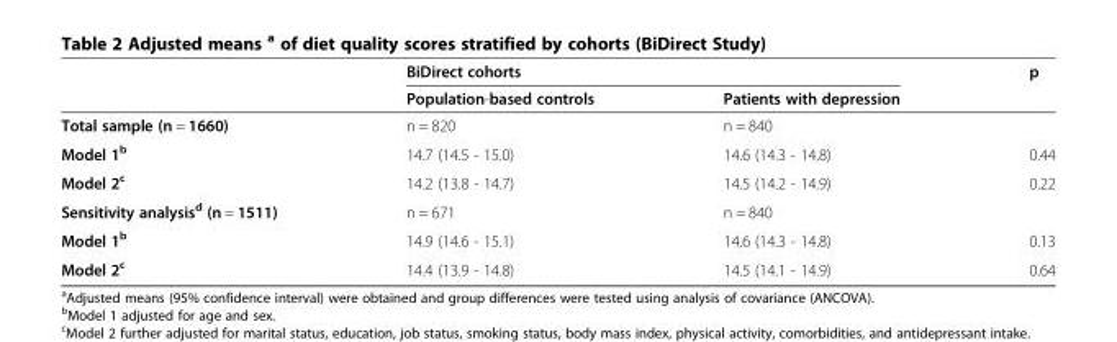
<table><thead><tr><td rowspan="2"></td><td colspan="2">BiDirect cohorts</td><td rowspan="2">p</td></tr><tr><td>Population-based controls</td><td>Patients with depression</td></tr></thead><tbody><tr><td>Total sample (n = 1660)</td><td>n = 820</td><td>n = 840</td><td></td></tr><tr><td>Model 1<sup>b</sup></td><td>14.7 (14.5 - 15.0)</td><td>14.6 (14.3 - 14.8)</td><td>0.44</td></tr><tr><td>Model 2<sup>c</sup></td><td>14.2 (13.8 - 14.7)</td><td>14.5 (14.2 - 14.9)</td><td>0.22</td></tr><tr><td>Sensitivity analysis<sup>d</sup> (n = 1511)</td><td>n = 671</td><td>n = 840</td><td></td></tr><tr><td>Model 1<sup>b</sup></td><td>14.9 (14.6 - 15.1)</td><td>14.6 (14.3 - 14.8)</td><td>0.13</td></tr><tr><td>Model 2<sup>c</sup></td><td>14.4 (13.9 - 14.8)</td><td>14.5 (14.1 - 14.9)</td><td>0.64</td></tr></tbody></table>